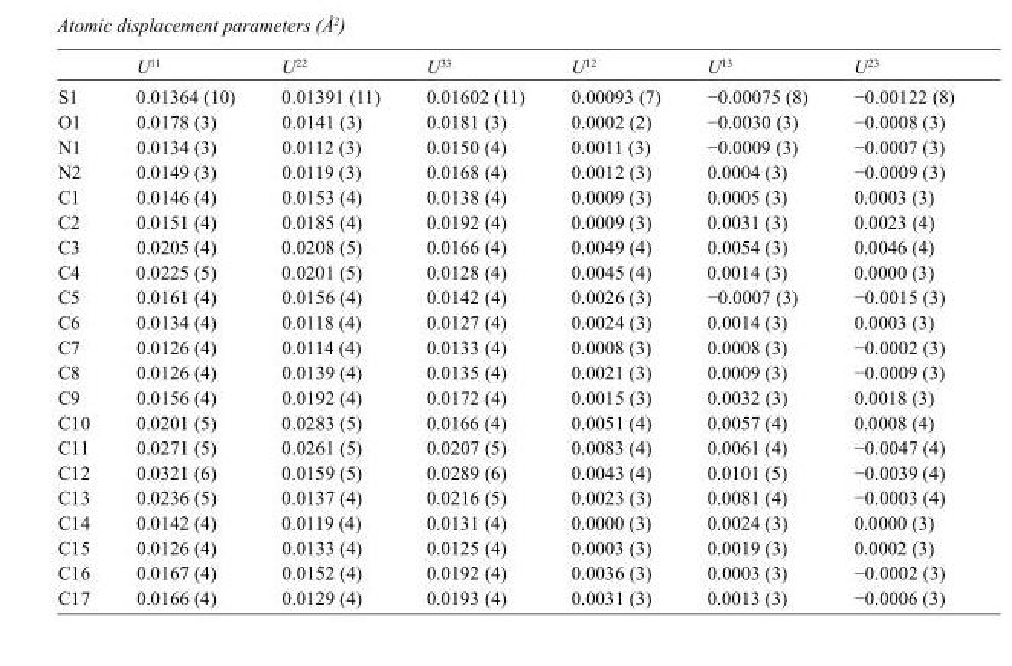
<table><thead><tr><td></td><td>U<sup>11</sup></td><td>U<sup>22</sup></td><td>U<sup>33</sup></td><td>U<sup>12</sup></td><td>U<sup>13</sup></td><td>U<sup>23</sup></td></tr></thead><tbody><tr><td>S1</td><td>0.01364 (10)</td><td>0.01391 (11)</td><td>0.01602 (11)</td><td>0.00093 (7)</td><td>−0.00075 (8)</td><td>−0.00122 (8)</td></tr><tr><td>O1</td><td>0.0178 (3)</td><td>0.0141 (3)</td><td>0.0181 (3)</td><td>0.0002 (2)</td><td>−0.0030 (3)</td><td>−0.0008 (3)</td></tr><tr><td>N1</td><td>0.0134 (3)</td><td>0.0112 (3)</td><td>0.0150 (4)</td><td>0.0011 (3)</td><td>−0.0009 (3)</td><td>−0.0007 (3)</td></tr><tr><td>N2</td><td>0.0149 (3)</td><td>0.0119 (3)</td><td>0.0168 (4)</td><td>0.0012 (3)</td><td>0.0004 (3)</td><td>−0.0009 (3)</td></tr><tr><td>C1</td><td>0.0146 (4)</td><td>0.0153 (4)</td><td>0.0138 (4)</td><td>0.0009 (3)</td><td>0.0005 (3)</td><td>0.0003 (3)</td></tr><tr><td>C2</td><td>0.0151 (4)</td><td>0.0185 (4)</td><td>0.0192 (4)</td><td>0.0009 (3)</td><td>0.0031 (3)</td><td>0.0023 (4)</td></tr><tr><td>C3</td><td>0.0205 (4)</td><td>0.0208 (5)</td><td>0.0166 (4)</td><td>0.0049 (4)</td><td>0.0054 (3)</td><td>0.0046 (4)</td></tr><tr><td>C4</td><td>0.0225 (5)</td><td>0.0201 (5)</td><td>0.0128 (4)</td><td>0.0045 (4)</td><td>0.0014 (3)</td><td>0.0000 (3)</td></tr><tr><td>C5</td><td>0.0161 (4)</td><td>0.0156 (4)</td><td>0.0142 (4)</td><td>0.0026 (3)</td><td>−0.0007 (3)</td><td>−0.0015 (3)</td></tr><tr><td>C6</td><td>0.0134 (4)</td><td>0.0118 (4)</td><td>0.0127 (4)</td><td>0.0024 (3)</td><td>0.0014 (3)</td><td>0.0003 (3)</td></tr><tr><td>C7</td><td>0.0126 (4)</td><td>0.0114 (4)</td><td>0.0133 (4)</td><td>0.0008 (3)</td><td>0.0008 (3)</td><td>−0.0002 (3)</td></tr><tr><td>C8</td><td>0.0126 (4)</td><td>0.0139 (4)</td><td>0.0135 (4)</td><td>0.0021 (3)</td><td>0.0009 (3)</td><td>−0.0009 (3)</td></tr><tr><td>C9</td><td>0.0156 (4)</td><td>0.0192 (4)</td><td>0.0172 (4)</td><td>0.0015 (3)</td><td>0.0032 (3)</td><td>0.0018 (3)</td></tr><tr><td>C10</td><td>0.0201 (5)</td><td>0.0283 (5)</td><td>0.0166 (4)</td><td>0.0051 (4)</td><td>0.0057 (4)</td><td>0.0008 (4)</td></tr><tr><td>C11</td><td>0.0271 (5)</td><td>0.0261 (5)</td><td>0.0207 (5)</td><td>0.0083 (4)</td><td>0.0061 (4)</td><td>−0.0047 (4)</td></tr><tr><td>C12</td><td>0.0321 (6)</td><td>0.0159 (5)</td><td>0.0289 (6)</td><td>0.0043 (4)</td><td>0.0101 (5)</td><td>−0.0039 (4)</td></tr><tr><td>C13</td><td>0.0236 (5)</td><td>0.0137 (4)</td><td>0.0216 (5)</td><td>0.0023 (3)</td><td>0.0081 (4)</td><td>−0.0003 (4)</td></tr><tr><td>C14</td><td>0.0142 (4)</td><td>0.0119 (4)</td><td>0.0131 (4)</td><td>0.0000 (3)</td><td>0.0024 (3)</td><td>0.0000 (3)</td></tr><tr><td>C15</td><td>0.0126 (4)</td><td>0.0133 (4)</td><td>0.0125 (4)</td><td>0.0003 (3)</td><td>0.0019 (3)</td><td>0.0002 (3)</td></tr><tr><td>C16</td><td>0.0167 (4)</td><td>0.0152 (4)</td><td>0.0192 (4)</td><td>0.0036 (3)</td><td>0.0003 (3)</td><td>−0.0002 (3)</td></tr><tr><td>C17</td><td>0.0166 (4)</td><td>0.0129 (4)</td><td>0.0193 (4)</td><td>0.0031 (3)</td><td>0.0013 (3)</td><td>−0.0006 (3)</td></tr></tbody></table>